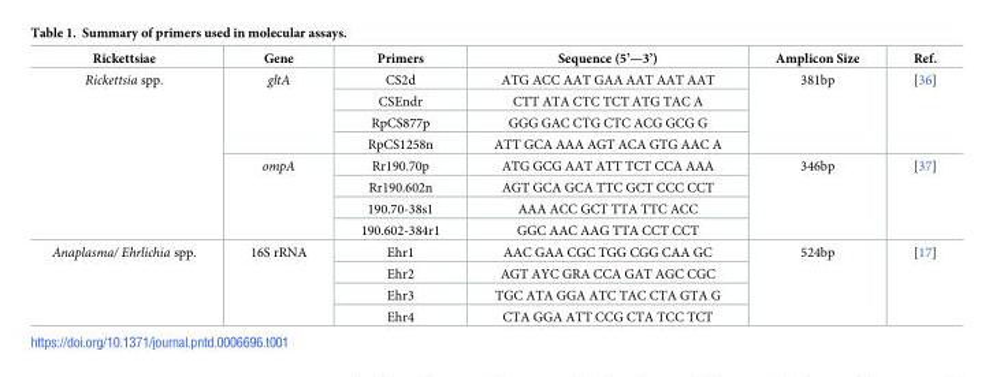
<table><thead><tr><td>Rickettsiae</td><td>Gene</td><td>Primers</td><td>Sequence (5’—3’)</td><td>Amplicon Size</td><td>Ref.</td></tr></thead><tbody><tr><td rowspan="8">Rickettsia spp.</td><td rowspan="4">gltA</td><td>CS2d</td><td>ATG ACC AAT GAA AAT AAT AAT</td><td rowspan="4">381bp</td><td rowspan="4">[36]</td></tr><tr><td>CSEndr</td><td>CTT ATA CTC TCT ATG TAC A</td></tr><tr><td>RpCS877p</td><td>GGG GAC CTG CTC ACG GCG G</td></tr><tr><td>RpCS1258n</td><td>ATT GCA AAA AGT ACA GTG AAC A</td></tr><tr><td rowspan="4">ompA</td><td>Rr190.70p</td><td>ATG GCG AAT ATT TCT CCA AAA</td><td rowspan="4">346bp</td><td rowspan="4">[37]</td></tr><tr><td>Rr190.602n</td><td>AGT GCA GCA TTC GCT CCC CCT</td></tr><tr><td>190.70-38s1</td><td>AAA ACC GCT TTA TTC ACC</td></tr><tr><td>190.602-384r1</td><td>GGC AAC AAG TTA CCT CCT</td></tr><tr><td rowspan="4">Anaplasma/ Ehrlichia spp.</td><td rowspan="4">16S rRNA</td><td>Ehr1</td><td>AAC GAA CGC TGG CGG CAA GC</td><td rowspan="4">524bp</td><td rowspan="4">[17]</td></tr><tr><td>Ehr2</td><td>AGT AYC GRA CCA GAT AGC CGC</td></tr><tr><td>Ehr3</td><td>TGC ATA GGA ATC TAC CTA GTA G</td></tr><tr><td>Ehr4</td><td>CTA GGA ATT CCG CTA TCC TCT</td></tr></tbody></table>